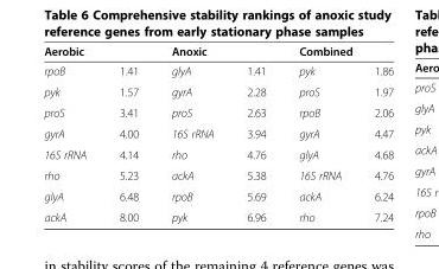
<table><thead><tr><td colspan="2">Aerobic</td><td colspan="2">Anoxic</td><td colspan="2">Combined</td></tr><tr><td>rpoB</td><td>1.41</td><td>glyA</td><td>1.41</td><td>pyk</td><td>1.86</td></tr></thead><tbody><tr><td>pyk</td><td>1.57</td><td>gyrA</td><td>2.28</td><td>proS</td><td>1.97</td></tr><tr><td>proS</td><td>3.41</td><td>proS</td><td>2.63</td><td>rpoB</td><td>2.06</td></tr><tr><td>gyrA</td><td>4.00</td><td>16S rRNA</td><td>3.94</td><td>gyrA</td><td>4.47</td></tr><tr><td>16S rRNA</td><td>4.14</td><td>rho</td><td>4.76</td><td>glyA</td><td>4.68</td></tr><tr><td>rho</td><td>5.23</td><td>ackA</td><td>5.38</td><td>16S rRNA</td><td>4.76</td></tr><tr><td>glyA</td><td>6.48</td><td>rpoB</td><td>5.69</td><td>ackA</td><td>6.24</td></tr><tr><td>ackA</td><td>8.00</td><td>pyk</td><td>6.96</td><td>rho</td><td>7.24</td></tr></tbody></table>